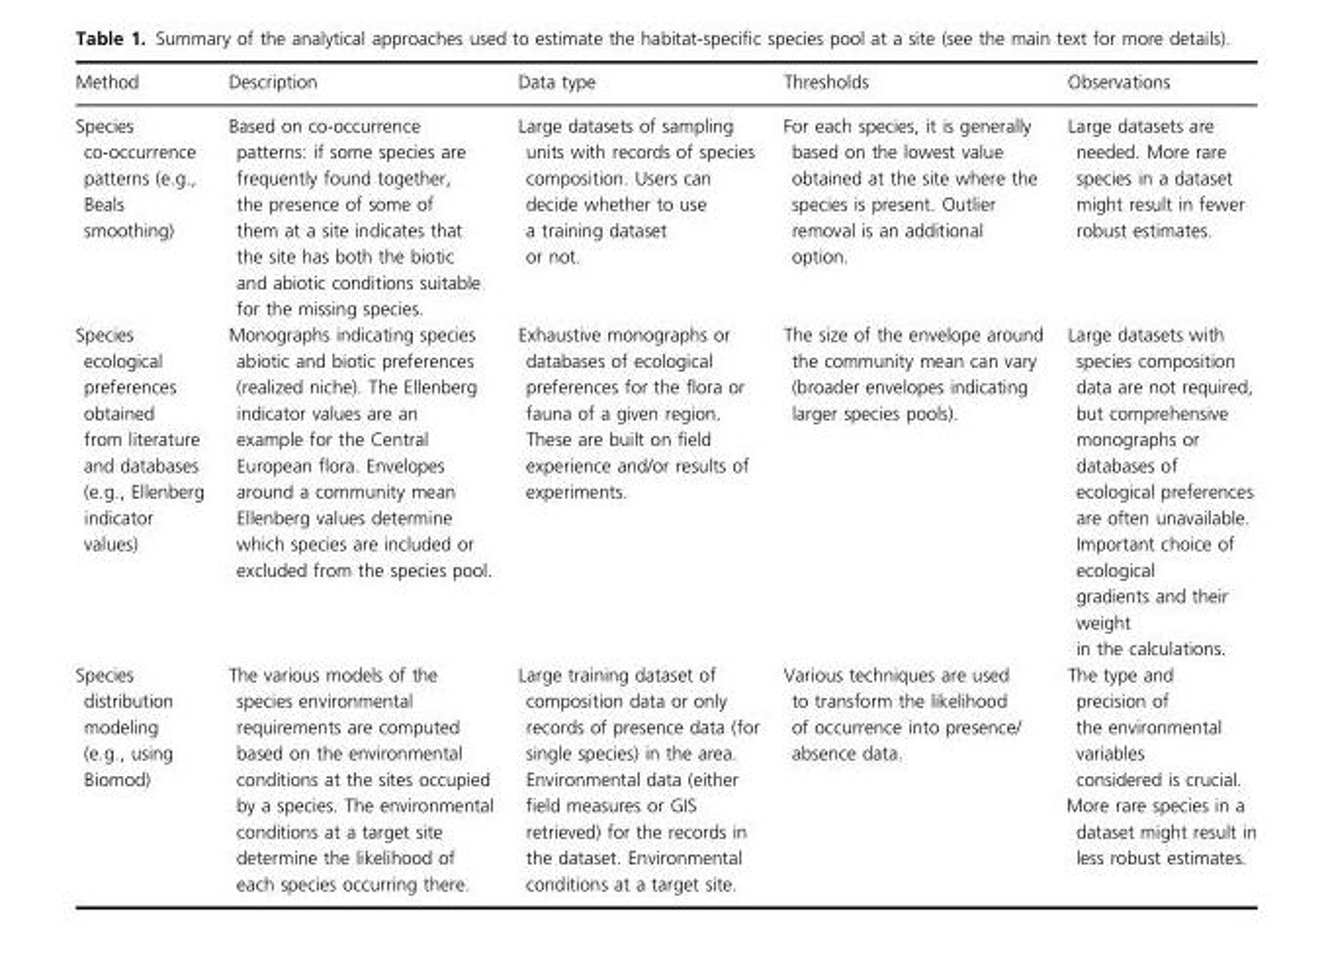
<table><thead><tr><td>Method</td><td>Description</td><td>Data type</td><td>Thresholds</td><td>Observations</td></tr></thead><tbody><tr><td>Species co-occurrence patterns (e.g., Beals smoothing)</td><td>Based on co-occurrence patterns: if some species are frequently found together, the presence of some of them at a site indicates that the site has both the biotic and abiotic conditions suitable for the missing species.</td><td>Large datasets of sampling units with records of species composition. Users can decide whether to use a training dataset or not.</td><td>For each species, it is generally based on the lowest value obtained at the site where the species is present. Outlier removal is an additional option.</td><td>Large datasets are needed. More rare species in a dataset might result in fewer robust estimates.</td></tr><tr><td>Species ecological preferences obtained from literature and databases (e.g., Ellenberg indicator values)</td><td>Monographs indicating species abiotic and biotic preferences (realized niche). The Ellenberg indicator values are an example for the Central European flora. Envelopes around a community mean Ellenberg values determine which species are included or excluded from the species pool.</td><td>Exhaustive monographs or databases of ecological preferences for the flora or fauna of a given region. These are built on field experience and/or results of experiments.</td><td>The size of the envelope around the community mean can vary (broader envelopes indicating larger species pools).</td><td>Large datasets with species composition data are not required, but comprehensive monographs or databases of ecological preferences are often unavailable. Important choice of ecological gradients and their weight in the calculations.</td></tr><tr><td>Species distribution modeling (e.g., using Biomod)</td><td>The various models of the species environmental requirements are computed based on the environmental conditions at the sites occupied by a species. The environmental conditions at a target site determine the likelihood of each species occurring there.</td><td>Large training dataset of composition data or only records of presence data (for single species) in the area. Environmental data (either field measures or GIS retrieved) for the records in the dataset. Environmental conditions at a target site.</td><td>Various techniques are used to transform the likelihood of occurrence into presence/ absence data.</td><td>The type and precision of the environmental variables considered is crucial. More rare species in a dataset might result in less robust estimates.</td></tr></tbody></table>